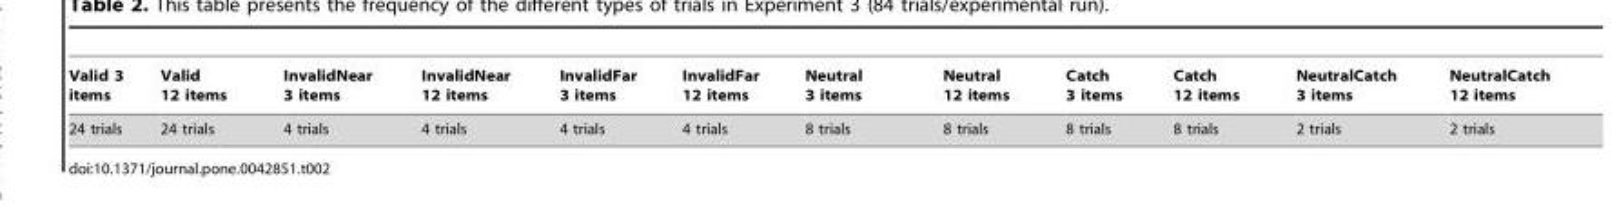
<table><thead><tr><td>Valid 3 items</td><td>Valid 12 items</td><td>InvalidNear 3 items</td><td>InvalidNear 12 items</td><td>InvalidFar 3 items</td><td>InvalidFar 12 items</td><td>Neutral 3 items</td><td>Neutral 12 items</td><td>Catch 3 items</td><td>Catch 12 items</td><td>NeutralCatch 3 items</td><td>NeutralCatch 12 items</td></tr></thead><tbody><tr><td>24 trials</td><td>24 trials</td><td>4 trials</td><td>4 trials</td><td>4 trials</td><td>4 trials</td><td>8 trials</td><td>8 trials</td><td>8 trials</td><td>8 trials</td><td>2 trials</td><td>2 trials</td></tr></tbody></table>